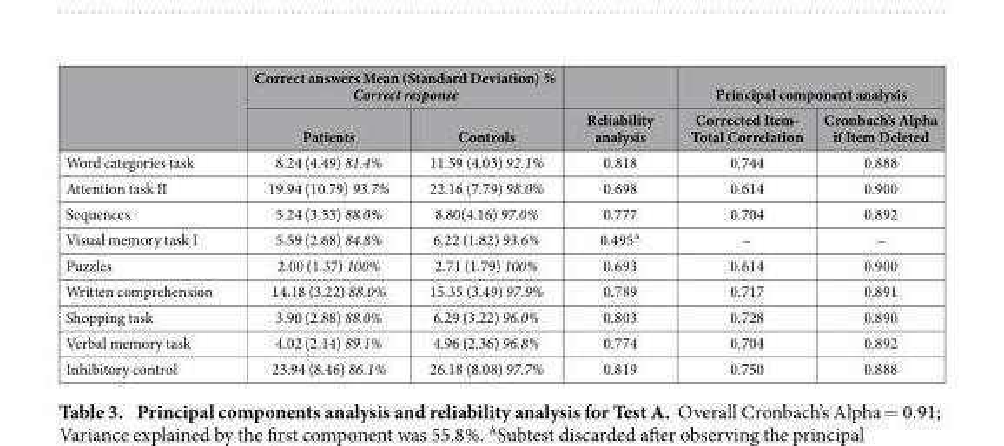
<table><thead><tr><td rowspan="2"></td><td colspan="2">Correct answers Mean (Standard Deviation) % Correct response</td><td rowspan="2">Reliability analysis</td><td colspan="2">Principal component analysis</td></tr><tr><td>Patients</td><td>Controls</td><td>Corrected Item- Total Correlation</td><td>Cronbach’s Alpha if Item Deleted</td></tr></thead><tbody><tr><td>Word categories task</td><td>8.24 (4.49) 81.4%</td><td>11.59 (4.03) 92.1%</td><td>0.818</td><td>0.744</td><td>0.888</td></tr><tr><td>Attention task II</td><td>19.94 (10.79) 93.7%</td><td>22.16 (7.79) 98.0%</td><td>0.698</td><td>0.614</td><td>0.900</td></tr><tr><td>Sequences</td><td>5.24 (3.53) 88.0%</td><td>8.80(4.16) 97.0%</td><td>0.777</td><td>0.704</td><td>0.892</td></tr><tr><td>Visual memory task I</td><td>5.59 (2.68) 84.8%</td><td>6.22 (1.82) 93.6%</td><td>0.495<sup>A</sup></td><td>–</td><td>–</td></tr><tr><td>Puzzles</td><td>2.00 (1.37) 100%</td><td>2.71 (1.79) 100%</td><td>0.693</td><td>0.614</td><td>0.900</td></tr><tr><td>Written comprehension</td><td>14.18 (3.22) 88.0%</td><td>15.35 (3.49) 97.9%</td><td>0.789</td><td>0.717</td><td>0.891</td></tr><tr><td>Shopping task</td><td>3.90 (2.88) 88.0%</td><td>6.29 (3.22) 96.0%</td><td>0.803</td><td>0.728</td><td>0.890</td></tr><tr><td>Verbal memory task</td><td>4.02 (2.14) 89.1%</td><td>4.96 (2.36) 96.8%</td><td>0.774</td><td>0.704</td><td>0.892</td></tr><tr><td>Inhibitory control</td><td>23.94 (8.46) 86.1%</td><td>26.18 (8.08) 97.7%</td><td>0.819</td><td>0.750</td><td>0.888</td></tr></tbody></table>